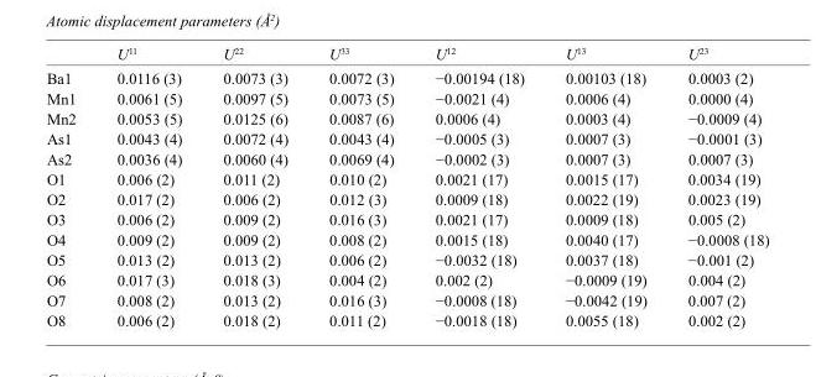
<table><thead><tr><td></td><td>U<sup>11</sup></td><td>U<sup>22</sup></td><td>U<sup>33</sup></td><td>U<sup>12</sup></td><td>U<sup>13</sup></td><td>U<sup>23</sup></td></tr></thead><tbody><tr><td>Ba1</td><td>0.0116 (3)</td><td>0.0073 (3)</td><td>0.0072 (3)</td><td>−0.00194 (18)</td><td>0.00103 (18)</td><td>0.0003 (2)</td></tr><tr><td>Mn1</td><td>0.0061 (5)</td><td>0.0097 (5)</td><td>0.0073 (5)</td><td>−0.0021 (4)</td><td>0.0006 (4)</td><td>0.0000 (4)</td></tr><tr><td>Mn2</td><td>0.0053 (5)</td><td>0.0125 (6)</td><td>0.0087 (6)</td><td>0.0006 (4)</td><td>0.0003 (4)</td><td>−0.0009 (4)</td></tr><tr><td>As1</td><td>0.0043 (4)</td><td>0.0072 (4)</td><td>0.0043 (4)</td><td>−0.0005 (3)</td><td>0.0007 (3)</td><td>−0.0001 (3)</td></tr><tr><td>As2</td><td>0.0036 (4)</td><td>0.0060 (4)</td><td>0.0069 (4)</td><td>−0.0002 (3)</td><td>0.0007 (3)</td><td>0.0007 (3)</td></tr><tr><td>O1</td><td>0.006 (2)</td><td>0.011 (2)</td><td>0.010 (2)</td><td>0.0021 (17)</td><td>0.0015 (17)</td><td>0.0034 (19)</td></tr><tr><td>O2</td><td>0.017 (2)</td><td>0.006 (2)</td><td>0.012 (3)</td><td>0.0009 (18)</td><td>0.0022 (19)</td><td>0.0023 (19)</td></tr><tr><td>O3</td><td>0.006 (2)</td><td>0.009 (2)</td><td>0.016 (3)</td><td>0.0021 (17)</td><td>0.0009 (18)</td><td>0.005 (2)</td></tr><tr><td>O4</td><td>0.009 (2)</td><td>0.009 (2)</td><td>0.008 (2)</td><td>0.0015 (18)</td><td>0.0040 (17)</td><td>−0.0008 (18)</td></tr><tr><td>O5</td><td>0.013 (2)</td><td>0.013 (2)</td><td>0.006 (2)</td><td>−0.0032 (18)</td><td>0.0037 (18)</td><td>−0.001 (2)</td></tr><tr><td>O6</td><td>0.017 (3)</td><td>0.018 (3)</td><td>0.004 (2)</td><td>0.002 (2)</td><td>−0.0009 (19)</td><td>0.004 (2)</td></tr><tr><td>O7</td><td>0.008 (2)</td><td>0.013 (2)</td><td>0.016 (3)</td><td>−0.0008 (18)</td><td>−0.0042 (19)</td><td>0.007 (2)</td></tr><tr><td>O8</td><td>0.006 (2)</td><td>0.018 (2)</td><td>0.011 (2)</td><td>−0.0018 (18)</td><td>0.0055 (18)</td><td>0.002 (2)</td></tr></tbody></table>